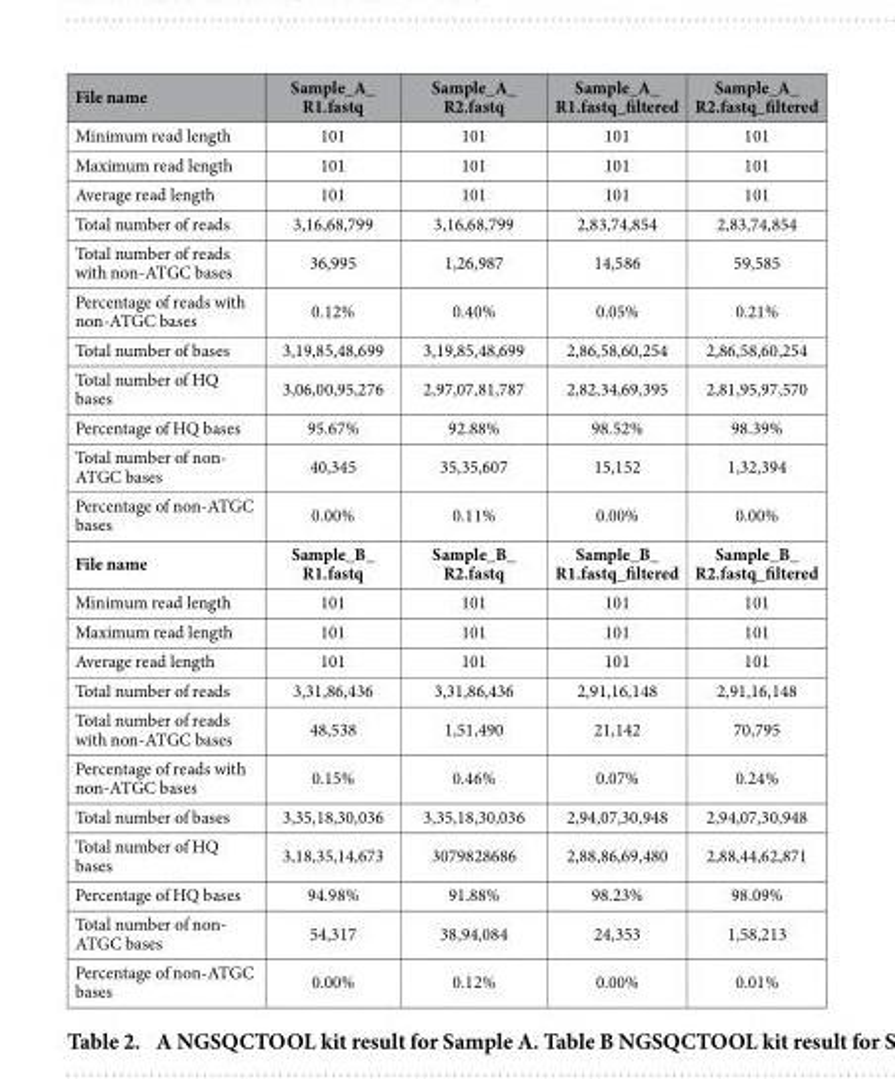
<table><thead><tr><td>File name</td><td>Sample_A_ R1.fastq</td><td>Sample_A_ R2.fastq</td><td>Sample_A_ R1.fastq_filtered</td><td>Sample_A_ R2.fastq_filtered</td></tr></thead><tbody><tr><td>Minimum read length</td><td>101</td><td>101</td><td>101</td><td>101</td></tr><tr><td>Maximum read length</td><td>101</td><td>101</td><td>101</td><td>101</td></tr><tr><td>Average read length</td><td>101</td><td>101</td><td>101</td><td>101</td></tr><tr><td>Total number of reads</td><td>3,16,68,799</td><td>3,16,68,799</td><td>2,83,74,854</td><td>2,83,74,854</td></tr><tr><td>Total number of reads with non-ATGC bases</td><td>36,995</td><td>1,26,987</td><td>14,586</td><td>59,585</td></tr><tr><td>Percentage of reads with non-ATGC bases</td><td>0.12%</td><td>0.40%</td><td>0.05%</td><td>0.21%</td></tr><tr><td>Total number of bases</td><td>3,19,85,48,699</td><td>3,19,85,48,699</td><td>2,86,58,60,254</td><td>2,86,58,60,254</td></tr><tr><td>Total number of HQ bases</td><td>3,06,00,95,276</td><td>2,97,07,81,787</td><td>2,82,34,69,395</td><td>2,81,95,97,570</td></tr><tr><td>Percentage of HQ bases</td><td>95.67%</td><td>92.88%</td><td>98.52%</td><td>98.39%</td></tr><tr><td>Total number of non- ATGC bases</td><td>40,345</td><td>35,35,607</td><td>15,152</td><td>1,32,394</td></tr><tr><td>Percentage of non-ATGC bases</td><td>0.00%</td><td>0.11%</td><td>0.00%</td><td>0.00%</td></tr><tr><td>File name</td><td>Sample_B_ R1.fastq</td><td>Sample_B_ R2.fastq</td><td>Sample_B_ R1.fastq_filtered</td><td>Sample_B_ R2.fastq_filtered</td></tr><tr><td>Minimum read length</td><td>101</td><td>101</td><td>101</td><td>101</td></tr><tr><td>Maximum read length</td><td>101</td><td>101</td><td>101</td><td>101</td></tr><tr><td>Average read length</td><td>101</td><td>101</td><td>101</td><td>101</td></tr><tr><td>Total number of reads</td><td>3,31,86,436</td><td>3,31,86,436</td><td>2,91,16,148</td><td>2,91,16,148</td></tr><tr><td>Total number of reads with non-ATGC bases</td><td>48,538</td><td>1,51,490</td><td>21,142</td><td>70,795</td></tr><tr><td>Percentage of reads with non-ATGC bases</td><td>0.15%</td><td>0.46%</td><td>0.07%</td><td>0.24%</td></tr><tr><td>Total number of bases</td><td>3,35,18,30,036</td><td>3,35,18,30,036</td><td>2,94,07,30,948</td><td>2,94,07,30,948</td></tr><tr><td>Total number of HQ bases</td><td>3,18,35,14,673</td><td>3079828686</td><td>2,88,86,69,480</td><td>2,88,44,62,871</td></tr><tr><td>Percentage of HQ bases</td><td>94.98%</td><td>91.88%</td><td>98.23%</td><td>98.09%</td></tr><tr><td>Total number of non- ATGC bases</td><td>54,317</td><td>38,94,084</td><td>24,353</td><td>1,58,213</td></tr><tr><td>Percentage of non-ATGC bases</td><td>0.00%</td><td>0.12%</td><td>0.00%</td><td>0.01%</td></tr></tbody></table>